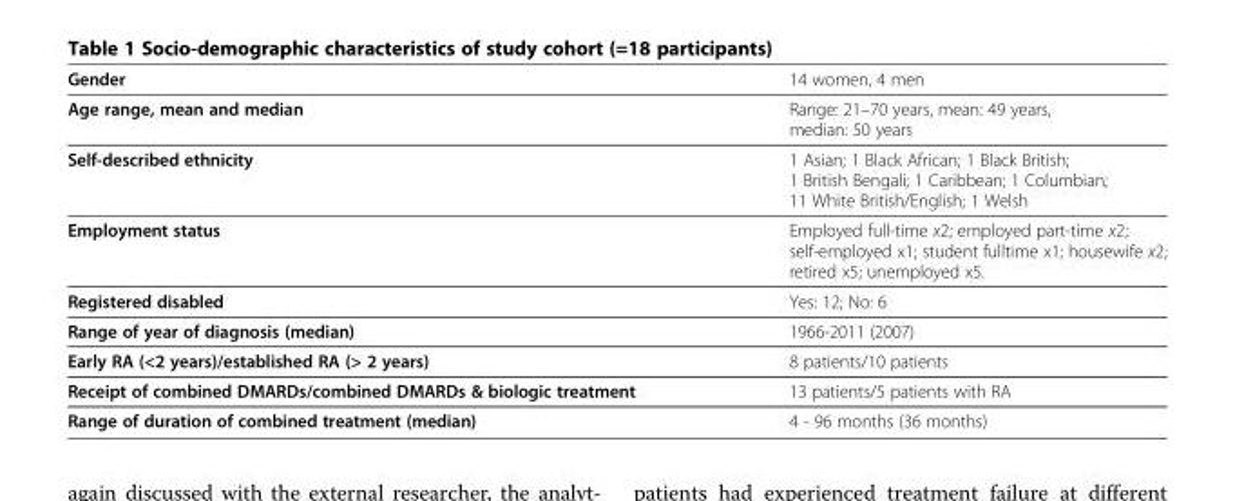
<table><tbody><tr><td>Gender</td><td>14 women, 4 men</td></tr><tr><td>Age range, mean and median</td><td>Range: 21–70 years, mean: 49 years, median: 50 years</td></tr><tr><td>Self-described ethnicity</td><td>1 Asian; 1 Black African; 1 Black British; 1 British Bengali; 1 Caribbean; 1 Columbian; 11 White British/English; 1 Welsh</td></tr><tr><td>Employment status</td><td>Employed full-time x2; employed part-time x2; self-employed x1; student fulltime x1; housewife x2; retired x5; unemployed x5.</td></tr><tr><td>Registered disabled</td><td>Yes: 12; No: 6</td></tr><tr><td>Range of year of diagnosis (median)</td><td>1966-2011 (2007)</td></tr><tr><td>Early RA (&lt;2 years)/established RA (&gt; 2 years)</td><td>8 patients/10 patients</td></tr><tr><td>Receipt of combined DMARDs/combined DMARDs &amp; biologic treatment</td><td>13 patients/5 patients with RA</td></tr><tr><td>Range of duration of combined treatment (median)</td><td>4 - 96 months (36 months)</td></tr></tbody></table>